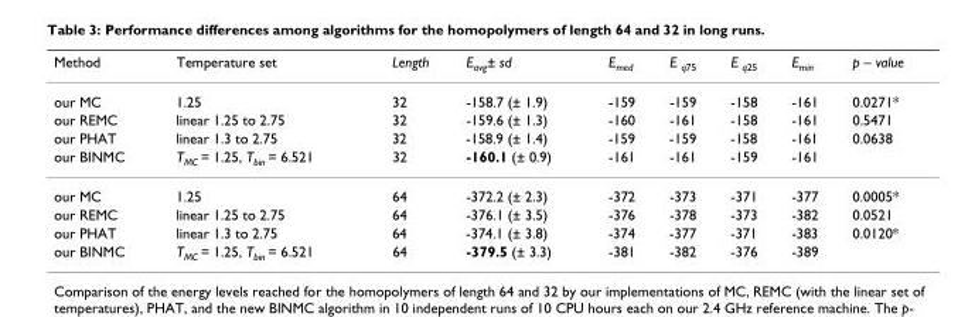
<table><thead><tr><td>Method</td><td>Temperature set</td><td>Length</td><td>E<sub>avg</sub>± sd</td><td>E<sub>med</sub></td><td>E <sub>q75</sub></td><td>E <sub>q25</sub></td><td>E<sub>min</sub></td><td>p – value</td></tr></thead><tbody><tr><td>our MC</td><td>1.25</td><td>32</td><td>-158.7 (± 1.9)</td><td>-159</td><td>-159</td><td>-158</td><td>-161</td><td>0.0271*</td></tr><tr><td>our REMC</td><td>linear 1.25 to 2.75</td><td>32</td><td>-159.6 (± 1.3)</td><td>-160</td><td>-161</td><td>-158</td><td>-161</td><td>0.5471</td></tr><tr><td>our PHAT</td><td>linear 1.3 to 2.75</td><td>32</td><td>-158.9 (± 1.4)</td><td>-159</td><td>-159</td><td>-158</td><td>-161</td><td>0.0638</td></tr><tr><td>our BINMC</td><td>T<sub>MC</sub> = 1.25, T<sub>bin</sub> = 6.521</td><td>32</td><td>-160.1 (± 0.9)</td><td>-161</td><td>-161</td><td>-159</td><td>-161</td><td></td></tr><tr><td>our MC</td><td>1.25</td><td>64</td><td>-372.2 (± 2.3)</td><td>-372</td><td>-373</td><td>-371</td><td>-377</td><td>0.0005*</td></tr><tr><td>our REMC</td><td>linear 1.25 to 2.75</td><td>64</td><td>-376.1 (± 3.5)</td><td>-376</td><td>-378</td><td>-373</td><td>-382</td><td>0.0521</td></tr><tr><td>our PHAT</td><td>linear 1.3 to 2.75</td><td>64</td><td>-374.1 (± 3.8)</td><td>-374</td><td>-377</td><td>-371</td><td>-383</td><td>0.0120*</td></tr><tr><td>our BINMC</td><td>T<sub>MC</sub> = 1.25, T<sub>bin</sub> = 6.521</td><td>64</td><td>-379.5 (± 3.3)</td><td>-381</td><td>-382</td><td>-376</td><td>-389</td><td></td></tr></tbody></table>